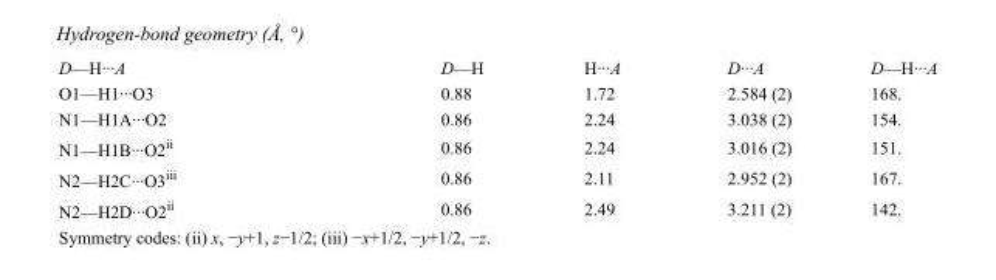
<table><tbody><tr><td>D—H···A</td><td>D—H</td><td>H···A</td><td>D···A</td><td>D—H···A</td></tr><tr><td>O1—H1···O3</td><td>0.88</td><td>1.72</td><td>2.584 (2)</td><td>168.</td></tr><tr><td>N1—H1A···O2</td><td>0.86</td><td>2.24</td><td>3.038 (2)</td><td>154.</td></tr><tr><td>N1—H1B···O2<sup>ii</sup></td><td>0.86</td><td>2.24</td><td>3.016 (2)</td><td>151.</td></tr><tr><td>N2—H2C···O3<sup>iii</sup></td><td>0.86</td><td>2.11</td><td>2.952 (2)</td><td>167.</td></tr><tr><td>N2—H2D···O2<sup>ii</sup></td><td>0.86</td><td>2.49</td><td>3.211 (2)</td><td>142.</td></tr></tbody></table>